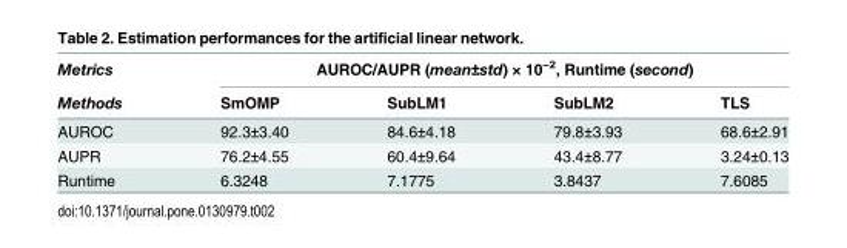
<table><thead><tr><td rowspan="2">Metrics Methods</td><td colspan="4">AUROC/AUPR (mean±std) × 10<sup>−2</sup>, Runtime (second)</td></tr><tr><td>SmOMP</td><td>SubLM1</td><td>SubLM2</td><td>TLS</td></tr></thead><tbody><tr><td>AUROC</td><td>92.3±3.40</td><td>84.6±4.18</td><td>79.8±3.93</td><td>68.6±2.91</td></tr><tr><td>AUPR</td><td>76.2±4.55</td><td>60.4±9.64</td><td>43.4±8.77</td><td>3.24±0.13</td></tr><tr><td>Runtime</td><td>6.3248</td><td>7.1775</td><td>3.8437</td><td>7.6085</td></tr></tbody></table>